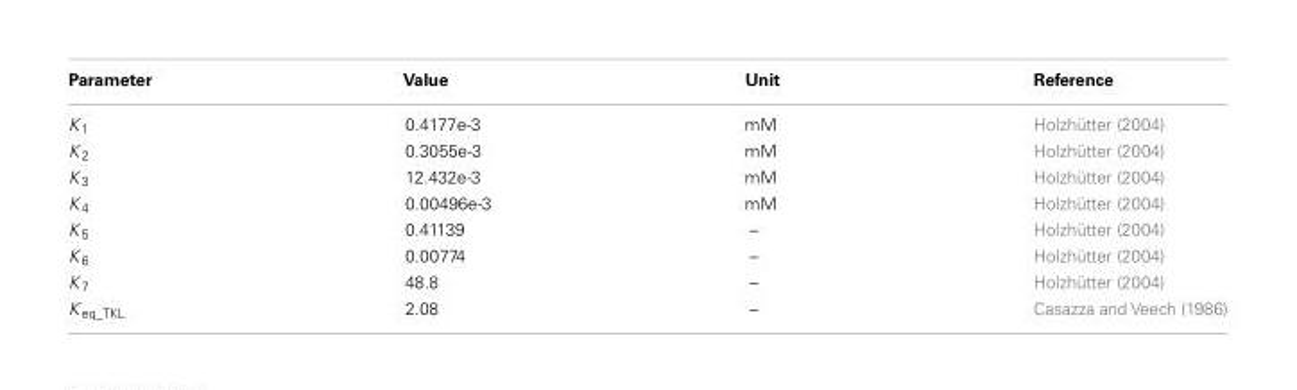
<table><thead><tr><td>Parameter</td><td>Value</td><td>Unit</td><td>Reference</td></tr></thead><tbody><tr><td>K <sub>1</sub></td><td>0.4177e-3</td><td>mM</td><td>Holzhütter (2004)</td></tr><tr><td>K <sub>2</sub></td><td>0.3055e-3</td><td>mM</td><td>Holzhütter (2004)</td></tr><tr><td>K <sub>3</sub></td><td>12.432e-3</td><td>mM</td><td>Holzhütter (2004)</td></tr><tr><td>K <sub>4</sub></td><td>0.00496e-3</td><td>mM</td><td>Holzhütter (2004)</td></tr><tr><td>K <sub>5</sub></td><td>0.41139</td><td>–</td><td>Holzhütter (2004)</td></tr><tr><td>K <sub>6</sub></td><td>0.00774</td><td>–</td><td>Holzhütter (2004)</td></tr><tr><td>K <sub>7</sub></td><td>48.8</td><td>–</td><td>Holzhütter (2004)</td></tr><tr><td>K <sub>eq_TKL</sub></td><td>2.08</td><td>–</td><td>Casazza and Veech (1986)</td></tr></tbody></table>